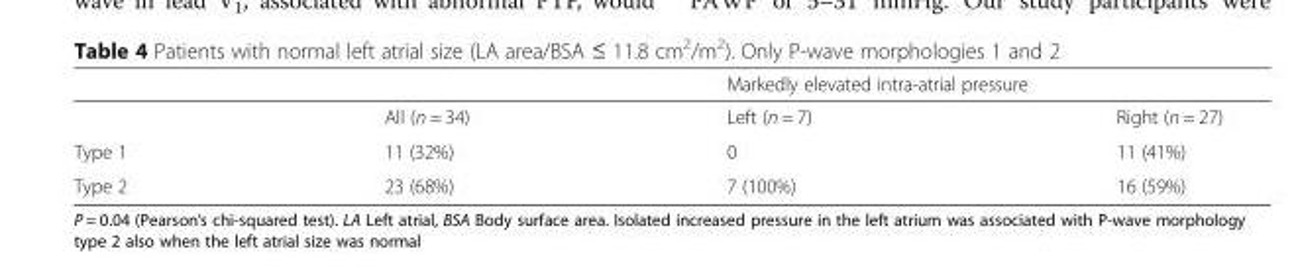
<table><thead><tr><td rowspan="2"></td><td rowspan="2">All (n = 34)</td><td colspan="2">Markedly elevated intra-atrial pressure</td></tr><tr><td>Left (n = 7)</td><td>Right (n = 27)</td></tr></thead><tbody><tr><td>Type 1</td><td>11 (32%)</td><td>0</td><td>11 (41%)</td></tr><tr><td>Type 2</td><td>23 (68%)</td><td>7 (100%)</td><td>16 (59%)</td></tr></tbody></table>